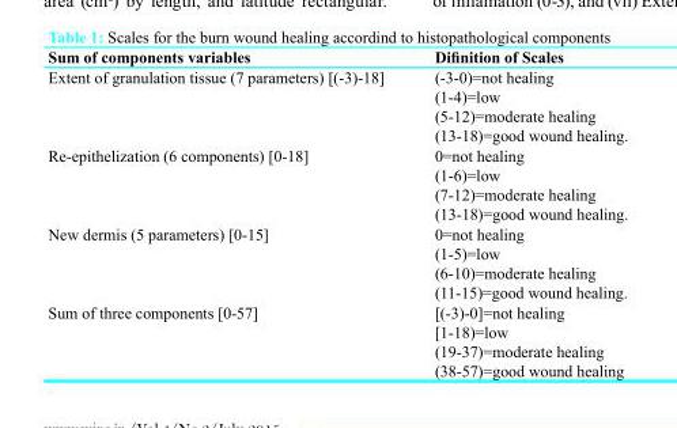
<table><thead><tr><td>Sum of components variables</td><td>Difinition of Scales</td></tr></thead><tbody><tr><td>Extent of granulation tissue (7 parameters) [(-3)-18]</td><td>(-3-0)=not healing (1-4)=low (5-12)=moderate healing (13-18)=good wound healing.</td></tr><tr><td>Re-epithelization (6 components) [0-18]</td><td>0=not healing (1-6)=low (7-12)=moderate healing (13-18)=good wound healing.</td></tr><tr><td>New dermis (5 parameters) [0-15]</td><td>0=not healing (1-5)=low (6-10)=moderate healing (11-15)=good wound healing.</td></tr><tr><td>Sum of three components [0-57]</td><td>[(-3)-0]=not healing [1-18)=low (19-37)=moderate healing (38-57)=good wound healing</td></tr></tbody></table>